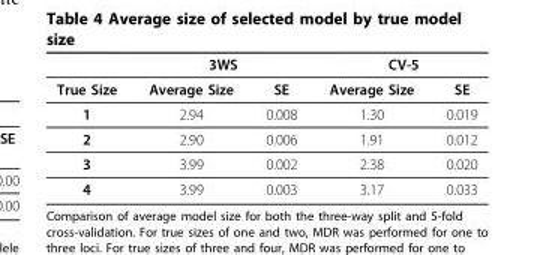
<table><thead><tr><td rowspan="2">True Size</td><td colspan="2">3WS</td><td colspan="2">CV-5</td></tr><tr><td>Average Size</td><td>SE</td><td>Average Size</td><td>SE</td></tr></thead><tbody><tr><td>1</td><td>2.94</td><td>0.008</td><td>1.30</td><td>0.019</td></tr><tr><td>2</td><td>2.90</td><td>0.006</td><td>1.91</td><td>0.012</td></tr><tr><td>3</td><td>3.99</td><td>0.002</td><td>2.38</td><td>0.020</td></tr><tr><td>4</td><td>3.99</td><td>0.003</td><td>3.17</td><td>0.033</td></tr></tbody></table>